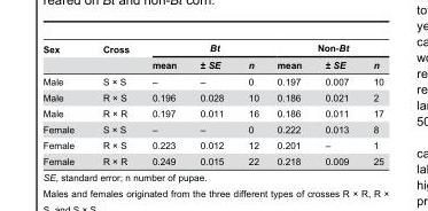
<table><thead><tr><td rowspan="2">Sex</td><td rowspan="2">Cross</td><td colspan="3">Bt</td><td colspan="3">Non-Bt</td></tr><tr><td>mean</td><td>± SE</td><td>n</td><td>mean</td><td>± SE</td><td>n</td></tr></thead><tbody><tr><td>Male</td><td>S × S</td><td>–</td><td>–</td><td>0</td><td>0.197</td><td>0.007</td><td>10</td></tr><tr><td>Male</td><td>R × S</td><td>0.196</td><td>0.028</td><td>10</td><td>0.186</td><td>0.021</td><td>2</td></tr><tr><td>Male</td><td>R × R</td><td>0.197</td><td>0.011</td><td>16</td><td>0.186</td><td>0.011</td><td>17</td></tr><tr><td>Female</td><td>S × S</td><td>–</td><td>–</td><td>0</td><td>0.222</td><td>0.013</td><td>8</td></tr><tr><td>Female</td><td>R × S</td><td>0.223</td><td>0.012</td><td>12</td><td>0.201</td><td>–</td><td>1</td></tr><tr><td>Female</td><td>R × R</td><td>0.249</td><td>0.015</td><td>22</td><td>0.218</td><td>0.009</td><td>25</td></tr></tbody></table>